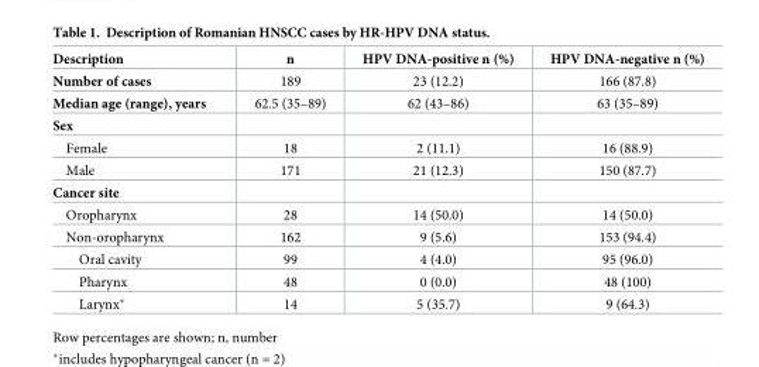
<table><thead><tr><td>Description</td><td>n</td><td>HPV DNA-positive n (%)</td><td>HPV DNA-negative n (%)</td></tr></thead><tbody><tr><td>Number of cases</td><td>189</td><td>23 (12.2)</td><td>166 (87.8)</td></tr><tr><td>Median age (range), years</td><td>62.5 (35–89)</td><td>62 (43–86)</td><td>63 (35–89)</td></tr><tr><td colspan="4">Sex</td></tr><tr><td>Female</td><td>18</td><td>2 (11.1)</td><td>16 (88.9)</td></tr><tr><td>Male</td><td>171</td><td>21 (12.3)</td><td>150 (87.7)</td></tr><tr><td colspan="4">Cancer site</td></tr><tr><td>Oropharynx</td><td>28</td><td>14 (50.0)</td><td>14 (50.0)</td></tr><tr><td>Non-oropharynx</td><td>162</td><td>9 (5.6)</td><td>153 (94.4)</td></tr><tr><td>Oral cavity</td><td>99</td><td>4 (4.0)</td><td>95 (96.0)</td></tr><tr><td>Pharynx</td><td>48</td><td>0 (0.0)</td><td>48 (100)</td></tr><tr><td>Larynx*</td><td>14</td><td>5 (35.7)</td><td>9 (64.3)</td></tr></tbody></table>